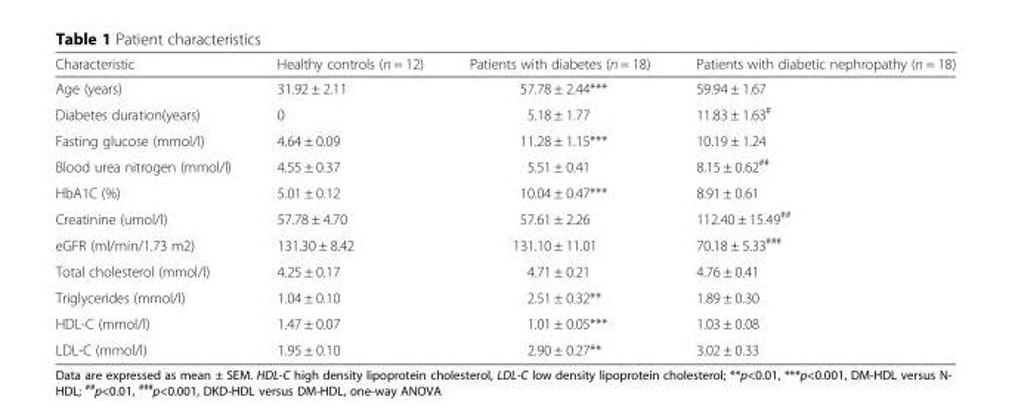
<table><thead><tr><td>Characteristic</td><td>Healthy controls (n = 12)</td><td>Patients with diabetes (n = 18)</td><td>Patients with diabetic nephropathy (n = 18)</td></tr></thead><tbody><tr><td>Age (years)</td><td>31.92 ± 2.11</td><td>57.78 ± 2.44***</td><td>59.94 ± 1.67</td></tr><tr><td>Diabetes duration(years)</td><td>0</td><td>5.18 ± 1.77</td><td>11.83 ± 1.63<sup>#</sup></td></tr><tr><td>Fasting glucose (mmol/l)</td><td>4.64 ± 0.09</td><td>11.28 ± 1.15***</td><td>10.19 ± 1.24</td></tr><tr><td>Blood urea nitrogen (mmol/l)</td><td>4.55 ± 0.37</td><td>5.51 ± 0.41</td><td>8.15 ± 0.62<sup>##</sup></td></tr><tr><td>HbA1C (%)</td><td>5.01 ± 0.12</td><td>10.04 ± 0.47***</td><td>8.91 ± 0.61</td></tr><tr><td>Creatinine (umol/l)</td><td>57.78 ± 4.70</td><td>57.61 ± 2.26</td><td>112.40 ± 15.49<sup>##</sup></td></tr><tr><td>eGFR (ml/min/1.73 m2)</td><td>131.30 ± 8.42</td><td>131.10 ± 11.01</td><td>70.18 ± 5.33<sup>###</sup></td></tr><tr><td>Total cholesterol (mmol/l)</td><td>4.25 ± 0.17</td><td>4.71 ± 0.21</td><td>4.76 ± 0.41</td></tr><tr><td>Triglycerides (mmol/l)</td><td>1.04 ± 0.10</td><td>2.51 ± 0.32**</td><td>1.89 ± 0.30</td></tr><tr><td>HDL-C (mmol/l)</td><td>1.47 ± 0.07</td><td>1.01 ± 0.05***</td><td>1.03 ± 0.08</td></tr><tr><td>LDL-C (mmol/l)</td><td>1.95 ± 0.10</td><td>2.90 ± 0.27**</td><td>3.02 ± 0.33</td></tr></tbody></table>